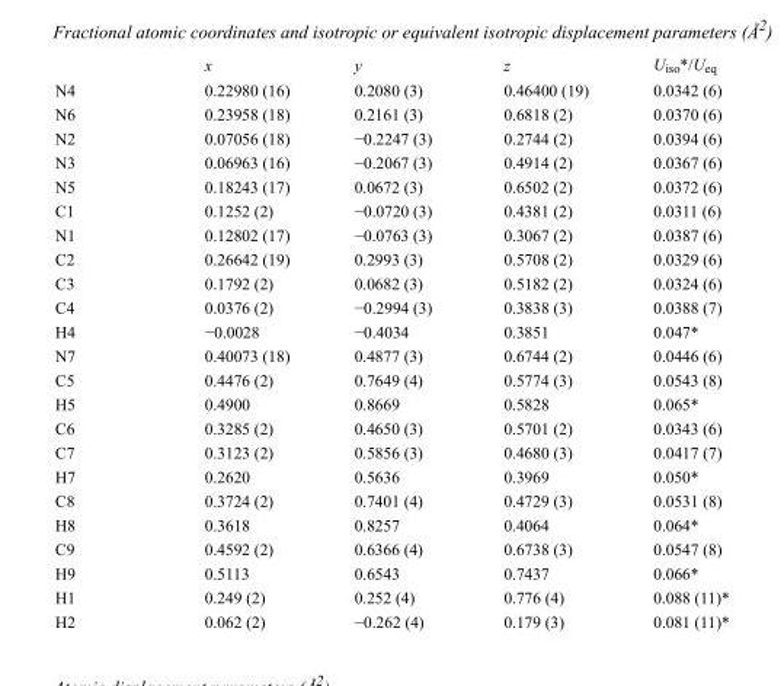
<table><thead><tr><td></td><td>x</td><td>y</td><td>z</td><td>U<sub>iso</sub>*/U<sub>eq</sub></td></tr></thead><tbody><tr><td>N4</td><td>0.22980 (16)</td><td>0.2080 (3)</td><td>0.46400 (19)</td><td>0.0342 (6)</td></tr><tr><td>N6</td><td>0.23958 (18)</td><td>0.2161 (3)</td><td>0.6818 (2)</td><td>0.0370 (6)</td></tr><tr><td>N2</td><td>0.07056 (18)</td><td>−0.2247 (3)</td><td>0.2744 (2)</td><td>0.0394 (6)</td></tr><tr><td>N3</td><td>0.06963 (16)</td><td>−0.2067 (3)</td><td>0.4914 (2)</td><td>0.0367 (6)</td></tr><tr><td>N5</td><td>0.18243 (17)</td><td>0.0672 (3)</td><td>0.6502 (2)</td><td>0.0372 (6)</td></tr><tr><td>C1</td><td>0.1252 (2)</td><td>−0.0720 (3)</td><td>0.4381 (2)</td><td>0.0311 (6)</td></tr><tr><td>N1</td><td>0.12802 (17)</td><td>−0.0763 (3)</td><td>0.3067 (2)</td><td>0.0387 (6)</td></tr><tr><td>C2</td><td>0.26642 (19)</td><td>0.2993 (3)</td><td>0.5708 (2)</td><td>0.0329 (6)</td></tr><tr><td>C3</td><td>0.1792 (2)</td><td>0.0682 (3)</td><td>0.5182 (2)</td><td>0.0324 (6)</td></tr><tr><td>C4</td><td>0.0376 (2)</td><td>−0.2994 (3)</td><td>0.3838 (3)</td><td>0.0388 (7)</td></tr><tr><td>H4</td><td>−0.0028</td><td>−0.4034</td><td>0.3851</td><td>0.047*</td></tr><tr><td>N7</td><td>0.40073 (18)</td><td>0.4877 (3)</td><td>0.6744 (2)</td><td>0.0446 (6)</td></tr><tr><td>C5</td><td>0.4476 (2)</td><td>0.7649 (4)</td><td>0.5774 (3)</td><td>0.0543 (8)</td></tr><tr><td>H5</td><td>0.4900</td><td>0.8669</td><td>0.5828</td><td>0.065*</td></tr><tr><td>C6</td><td>0.3285 (2)</td><td>0.4650 (3)</td><td>0.5701 (2)</td><td>0.0343 (6)</td></tr><tr><td>C7</td><td>0.3123 (2)</td><td>0.5856 (3)</td><td>0.4680 (3)</td><td>0.0417 (7)</td></tr><tr><td>H7</td><td>0.2620</td><td>0.5636</td><td>0.3969</td><td>0.050*</td></tr><tr><td>C8</td><td>0.3724 (2)</td><td>0.7401 (4)</td><td>0.4729 (3)</td><td>0.0531 (8)</td></tr><tr><td>H8</td><td>0.3618</td><td>0.8257</td><td>0.4064</td><td>0.064*</td></tr><tr><td>C9</td><td>0.4592 (2)</td><td>0.6366 (4)</td><td>0.6738 (3)</td><td>0.0547 (8)</td></tr><tr><td>H9</td><td>0.5113</td><td>0.6543</td><td>0.7437</td><td>0.066*</td></tr><tr><td>H1</td><td>0.249 (2)</td><td>0.252 (4)</td><td>0.776 (4)</td><td>0.088 (11)*</td></tr><tr><td>H2</td><td>0.062 (2)</td><td>−0.262 (4)</td><td>0.179 (3)</td><td>0.081 (11)*</td></tr></tbody></table>